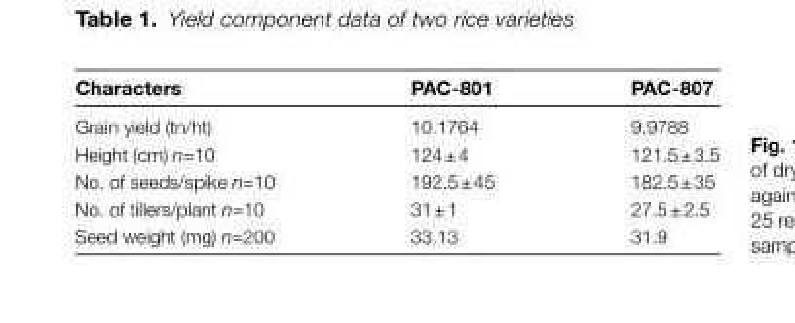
<table><thead><tr><td>Characters</td><td>PAC-801</td><td>PAC-807</td></tr></thead><tbody><tr><td>Grain yield (tn/ht)</td><td>10.1764</td><td>9.9788</td></tr><tr><td>Height (cm) n=10</td><td>124 ± 4</td><td>121.5 ± 3.5</td></tr><tr><td>No. of seeds/spike n=10</td><td>192.5 ± 45</td><td>182.5 ± 35</td></tr><tr><td>No. of tillers/plant n=10</td><td>31 ± 1</td><td>27.5 ± 2.5</td></tr><tr><td>Seed weight (mg) n=200</td><td>33.13</td><td>31.9</td></tr></tbody></table>